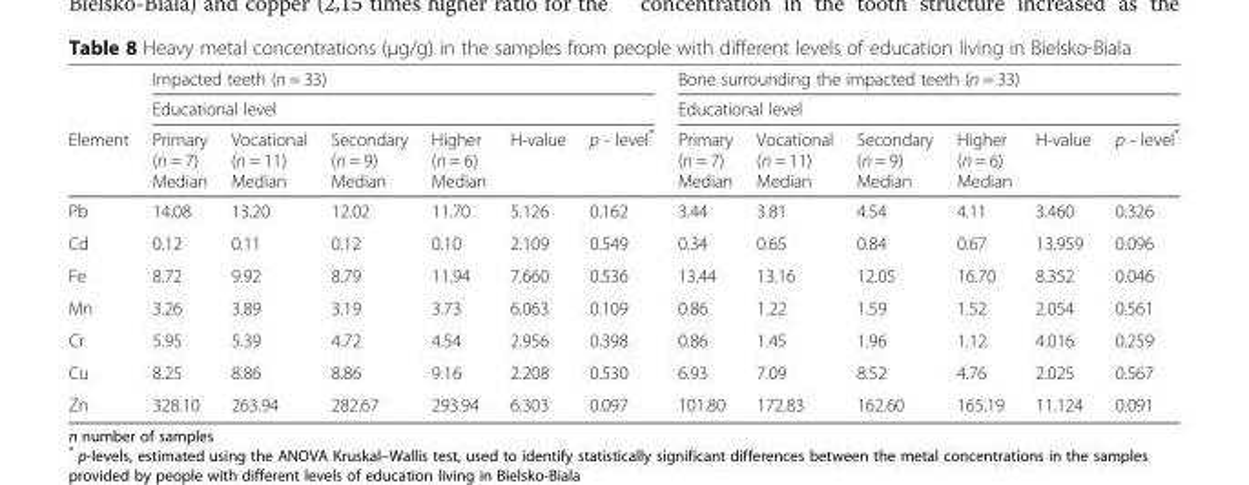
<table><thead><tr><td rowspan="3">Element</td><td rowspan="2" colspan="6">Impacted teeth (n = 33) Educational level</td><td rowspan="2" colspan="6">Bone surrounding the impacted teeth (n = 33) Educational level</td></tr><tr></tr><tr><td>Primary (n = 7) Median</td><td>Vocational (n = 11) Median</td><td>Secondary (n = 9) Median</td><td>Higher (n = 6) Median</td><td>H-value</td><td>p - level*</td><td>Primary (n = 7) Median</td><td>Vocational (n = 11) Median</td><td>Secondary (n = 9) Median</td><td>Higher (n = 6) Median</td><td>H-value</td><td>p - level*</td></tr></thead><tbody><tr><td>Pb</td><td>14.08</td><td>13.20</td><td>12.02</td><td>11.70</td><td>5.126</td><td>0.162</td><td>3.44</td><td>3.81</td><td>4.54</td><td>4.11</td><td>3.460</td><td>0.326</td></tr><tr><td>Cd</td><td>0.12</td><td>0.11</td><td>0.12</td><td>0.10</td><td>2.109</td><td>0.549</td><td>0.34</td><td>0.65</td><td>0.84</td><td>0.67</td><td>13.959</td><td>0.096</td></tr><tr><td>Fe</td><td>8.72</td><td>9.92</td><td>8.79</td><td>11.94</td><td>7.660</td><td>0.536</td><td>13.44</td><td>13.16</td><td>12.05</td><td>16.70</td><td>8.352</td><td>0.046</td></tr><tr><td>Mn</td><td>3.26</td><td>3.89</td><td>3.19</td><td>3.73</td><td>6.063</td><td>0.109</td><td>0.86</td><td>1.22</td><td>1.59</td><td>1.52</td><td>2.054</td><td>0.561</td></tr><tr><td>Cr</td><td>5.95</td><td>5.39</td><td>4.72</td><td>4.54</td><td>2.956</td><td>0.398</td><td>0.86</td><td>1.45</td><td>1.96</td><td>1.12</td><td>4.016</td><td>0.259</td></tr><tr><td>Cu</td><td>8.25</td><td>8.86</td><td>8.86</td><td>9.16</td><td>2.208</td><td>0.530</td><td>6.93</td><td>7.09</td><td>8.52</td><td>4.76</td><td>2.025</td><td>0.567</td></tr><tr><td>Zn</td><td>328.10</td><td>263.94</td><td>282.67</td><td>293.94</td><td>6.303</td><td>0.097</td><td>101.80</td><td>172.83</td><td>162.60</td><td>165.19</td><td>11.124</td><td>0.091</td></tr></tbody></table>